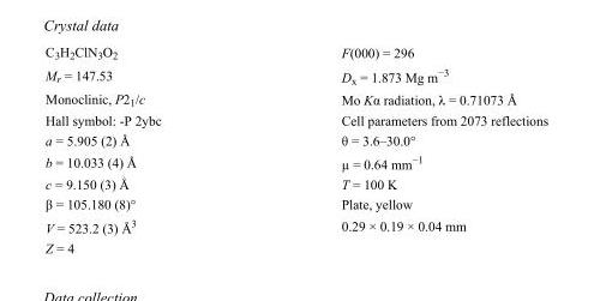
<table><tbody><tr><td>C<sub>3</sub>H<sub>2</sub>ClN<sub>3</sub>O<sub>2</sub></td><td>F(000) = 296</td></tr><tr><td>M<sub>r</sub> = 147.53</td><td>D<sub>x</sub> = 1.873 Mg m<sup>−3</sup></td></tr><tr><td>Monoclinic, P2<sub>1</sub>/c</td><td>Mo Kα radiation, λ = 0.71073 Å</td></tr><tr><td>Hall symbol: -P 2ybc</td><td>Cell parameters from 2073 reflections</td></tr><tr><td>a = 5.905 (2) Å</td><td>θ = 3.6–30.0°</td></tr><tr><td>b = 10.033 (4) Å</td><td>µ = 0.64 mm<sup>−1</sup></td></tr><tr><td>c = 9.150 (3) Å</td><td>T = 100 K</td></tr><tr><td>β = 105.180 (8)°</td><td>Plate, yellow</td></tr><tr><td>V = 523.2 (3) Å<sup>3</sup></td><td>0.29 × 0.19 × 0.04 mm</td></tr><tr><td>Z = 4</td><td></td></tr></tbody></table>